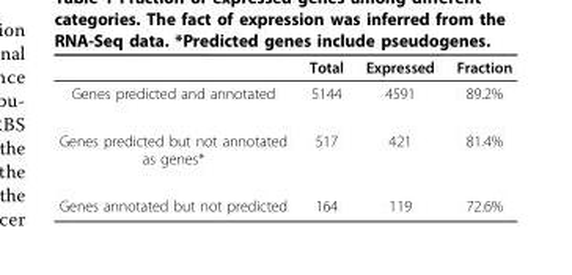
<table><thead><tr><td></td><td>Total</td><td>Expressed</td><td>Fraction</td></tr></thead><tbody><tr><td>Genes predicted and annotated</td><td>5144</td><td>4591</td><td>89.2%</td></tr><tr><td>Genes predicted but not annotated as genes*</td><td>517</td><td>421</td><td>81.4%</td></tr><tr><td>Genes annotated but not predicted</td><td>164</td><td>119</td><td>72.6%</td></tr></tbody></table>